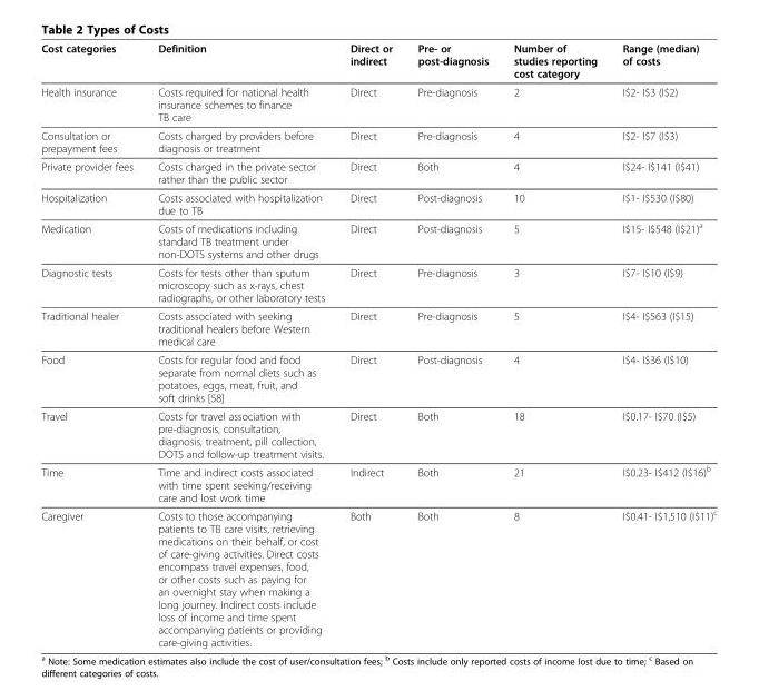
<table><thead><tr><td>Cost categories</td><td>Definition</td><td>Direct or indirect</td><td>Pre- or post-diagnosis</td><td>Number of studies reporting cost category</td><td>Range (median) of costs</td></tr></thead><tbody><tr><td>Health insurance</td><td>Costs required for national health insurance schemes to finance TB care</td><td>Direct</td><td>Pre-diagnosis</td><td>2</td><td>I$2- I$3 (I$2)</td></tr><tr><td>Consultation or prepayment fees</td><td>Costs charged by providers before diagnosis or treatment</td><td>Direct</td><td>Pre-diagnosis</td><td>4</td><td>I$2- I$7 (I$3)</td></tr><tr><td>Private provider fees</td><td>Costs charged in the private sector rather than the public sector</td><td>Direct</td><td>Both</td><td>4</td><td>I$24- I$141 (I$41)</td></tr><tr><td>Hospitalization</td><td>Costs associated with hospitalization due to TB</td><td>Direct</td><td>Post-diagnosis</td><td>10</td><td>I$1- I$530 (I$80)</td></tr><tr><td>Medication</td><td>Costs of medications including standard TB treatment under non-DOTS systems and other drugs</td><td>Direct</td><td>Post-diagnosis</td><td>5</td><td>I$15- I$548 (I$21)<sup>a</sup></td></tr><tr><td>Diagnostic tests</td><td>Costs for tests other than sputum microscopy such as x-rays, chest radiographs, or other laboratory tests</td><td>Direct</td><td>Pre-diagnosis</td><td>3</td><td>I$7- I$10 (I$9)</td></tr><tr><td>Traditional healer</td><td>Costs associated with seeking traditional healers before Western medical care</td><td>Direct</td><td>Pre-diagnosis</td><td>5</td><td>I$4- I$563 (I$15)</td></tr><tr><td>Food</td><td>Costs for regular food and food separate from normal diets such as potatoes, eggs, meat, fruit, and soft drinks [58]</td><td>Direct</td><td>Post-diagnosis</td><td>4</td><td>I$4- I$36 (I$10)</td></tr><tr><td>Travel</td><td>Costs for travel association with pre-diagnosis, consultation, diagnosis, treatment, pill collection, DOTS and follow-up treatment visits.</td><td>Direct</td><td>Both</td><td>18</td><td>I$0.17- I$70 (I$5)</td></tr><tr><td>Time</td><td>Time and indirect costs associated with time spent seeking/receiving care and lost work time</td><td>Indirect</td><td>Both</td><td>21</td><td>I$0.23- I$412 (I$16)<sup>b</sup></td></tr><tr><td>Caregiver</td><td>Costs to those accompanying patients to TB care visits, retrieving medications on their behalf, or cost of care-giving activities. Direct costs encompass travel expenses, food, or other costs such as paying for an overnight stay when making a long journey. Indirect costs include loss of income and time spent accompanying patients or providing care-giving activities.</td><td>Both</td><td>Both</td><td>8</td><td>I$0.41- I$1,510 (I$11)<sup>c</sup></td></tr></tbody></table>